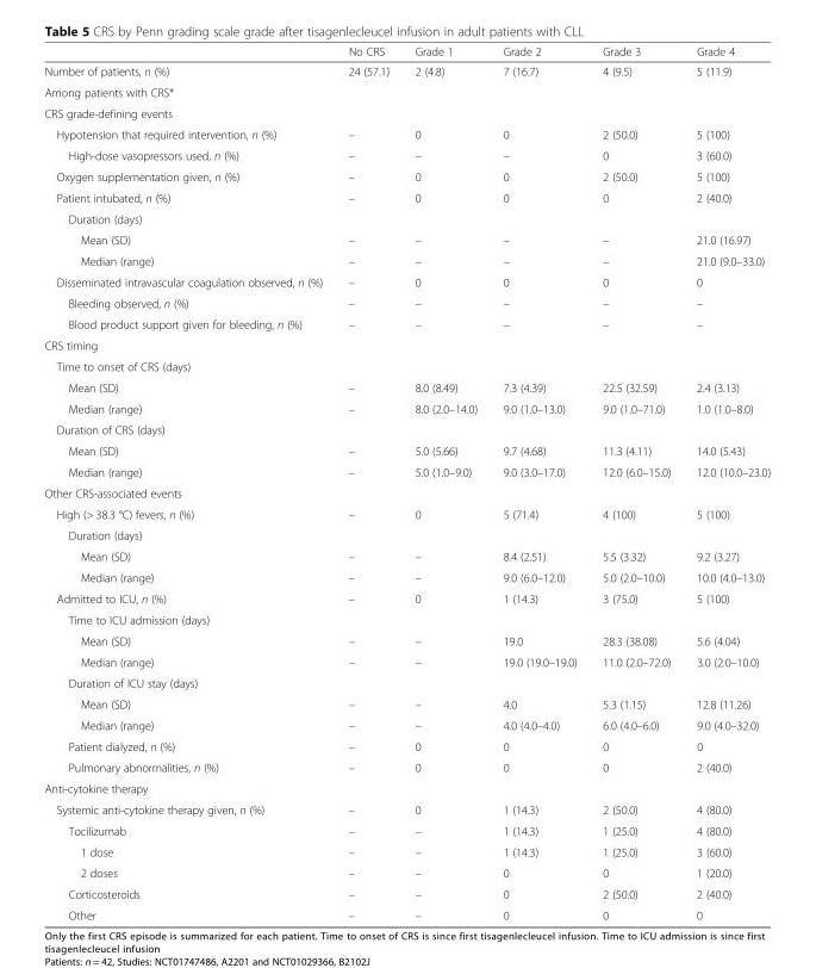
<table><thead><tr><td></td><td>No CRS</td><td>Grade 1</td><td>Grade 2</td><td>Grade 3</td><td>Grade 4</td></tr></thead><tbody><tr><td>Number of patients, n (%)</td><td>24 (57.1)</td><td>2 (4.8)</td><td>7 (16.7)</td><td>4 (9.5)</td><td>5 (11.9)</td></tr><tr><td colspan="6">Among patients with CRS*</td></tr><tr><td colspan="6">CRS grade-defining events</td></tr><tr><td>Hypotension that required intervention, n (%)</td><td>–</td><td>0</td><td>0</td><td>2 (50.0)</td><td>5 (100)</td></tr><tr><td>High-dose vasopressors used, n (%)</td><td>–</td><td>–</td><td>–</td><td>0</td><td>3 (60.0)</td></tr><tr><td>Oxygen supplementation given, n (%)</td><td>–</td><td>0</td><td>0</td><td>2 (50.0)</td><td>5 (100)</td></tr><tr><td>Patient intubated, n (%)</td><td>–</td><td>0</td><td>0</td><td>0</td><td>2 (40.0)</td></tr><tr><td colspan="6">Duration (days)</td></tr><tr><td>Mean (SD)</td><td>–</td><td>–</td><td>–</td><td>–</td><td>21.0 (16.97)</td></tr><tr><td>Median (range)</td><td>–</td><td>–</td><td>–</td><td>–</td><td>21.0 (9.0–33.0)</td></tr><tr><td>Disseminated intravascular coagulation observed, n (%)</td><td>–</td><td>0</td><td>0</td><td>0</td><td>0</td></tr><tr><td>Bleeding observed, n (%)</td><td>–</td><td>–</td><td>–</td><td>–</td><td>–</td></tr><tr><td>Blood product support given for bleeding, n (%)</td><td>–</td><td>–</td><td>–</td><td>–</td><td>–</td></tr><tr><td colspan="6">CRS timing</td></tr><tr><td colspan="6">Time to onset of CRS (days)</td></tr><tr><td>Mean (SD)</td><td>–</td><td>8.0 (8.49)</td><td>7.3 (4.39)</td><td>22.5 (32.59)</td><td>2.4 (3.13)</td></tr><tr><td>Median (range)</td><td>–</td><td>8.0 (2.0–14.0)</td><td>9.0 (1.0–13.0)</td><td>9.0 (1.0–71.0)</td><td>1.0 (1.0–8.0)</td></tr><tr><td colspan="6">Duration of CRS (days)</td></tr><tr><td>Mean (SD)</td><td>–</td><td>5.0 (5.66)</td><td>9.7 (4.68)</td><td>11.3 (4.11)</td><td>14.0 (5.43)</td></tr><tr><td>Median (range)</td><td>–</td><td>5.0 (1.0–9.0)</td><td>9.0 (3.0–17.0)</td><td>12.0 (6.0–15.0)</td><td>12.0 (10.0–23.0)</td></tr><tr><td colspan="6">Other CRS-associated events</td></tr><tr><td>High (&gt; 38.3 °C) fevers, n (%)</td><td>–</td><td>0</td><td>5 (71.4)</td><td>4 (100)</td><td>5 (100)</td></tr><tr><td colspan="6">Duration (days)</td></tr><tr><td>Mean (SD)</td><td>–</td><td>–</td><td>8.4 (2.51)</td><td>5.5 (3.32)</td><td>9.2 (3.27)</td></tr><tr><td>Median (range)</td><td>–</td><td>–</td><td>9.0 (6.0–12.0)</td><td>5.0 (2.0–10.0)</td><td>10.0 (4.0–13.0)</td></tr><tr><td>Admitted to ICU, n (%)</td><td>–</td><td>0</td><td>1 (14.3)</td><td>3 (75.0)</td><td>5 (100)</td></tr><tr><td colspan="6">Time to ICU admission (days)</td></tr><tr><td>Mean (SD)</td><td>–</td><td>–</td><td>19.0</td><td>28.3 (38.08)</td><td>5.6 (4.04)</td></tr><tr><td>Median (range)</td><td>–</td><td>–</td><td>19.0 (19.0–19.0)</td><td>11.0 (2.0–72.0)</td><td>3.0 (2.0–10.0)</td></tr><tr><td colspan="6">Duration of ICU stay (days)</td></tr><tr><td>Mean (SD)</td><td>–</td><td>–</td><td>4.0</td><td>5.3 (1.15)</td><td>12.8 (11.26)</td></tr><tr><td>Median (range)</td><td>–</td><td>–</td><td>4.0 (4.0–4.0)</td><td>6.0 (4.0–6.0)</td><td>9.0 (4.0–32.0)</td></tr><tr><td>Patient dialyzed, n (%)</td><td>–</td><td>0</td><td>0</td><td>0</td><td>0</td></tr><tr><td>Pulmonary abnormalities, n (%)</td><td>–</td><td>0</td><td>0</td><td>0</td><td>2 (40.0)</td></tr><tr><td colspan="6">Anti-cytokine therapy</td></tr><tr><td>Systemic anti-cytokine therapy given, n (%)</td><td>–</td><td>0</td><td>1 (14.3)</td><td>2 (50.0)</td><td>4 (80.0)</td></tr><tr><td>Tocilizumab</td><td>–</td><td>–</td><td>1 (14.3)</td><td>1 (25.0)</td><td>4 (80.0)</td></tr><tr><td>1 dose</td><td>–</td><td>–</td><td>1 (14.3)</td><td>1 (25.0)</td><td>3 (60.0)</td></tr><tr><td>2 doses</td><td>–</td><td>–</td><td>0</td><td>0</td><td>1 (20.0)</td></tr><tr><td>Corticosteroids</td><td>–</td><td>–</td><td>0</td><td>2 (50.0)</td><td>2 (40.0)</td></tr><tr><td>Other</td><td>–</td><td>–</td><td>0</td><td>0</td><td>0</td></tr></tbody></table>